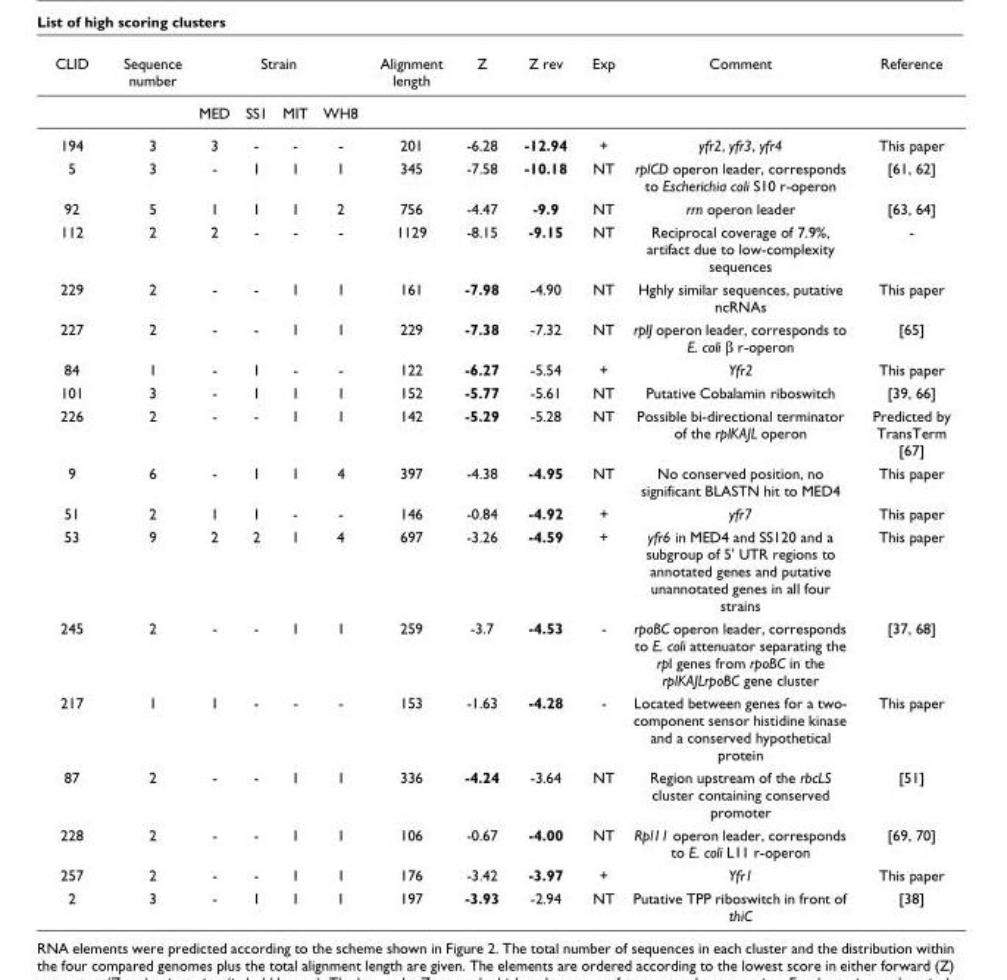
<table><thead><tr><td rowspan="2">CLID</td><td rowspan="2">Sequence number</td><td colspan="4">Strain</td><td rowspan="2">Alignment length</td><td rowspan="2">Z</td><td rowspan="2">Z rev</td><td rowspan="2">Exp</td><td rowspan="2">Comment</td><td rowspan="2">Reference</td></tr><tr><td>MED</td><td>SS1</td><td>MIT</td><td>WH8</td></tr></thead><tbody><tr><td>194</td><td>3</td><td>3</td><td>-</td><td>-</td><td>-</td><td>201</td><td>-6.28</td><td>-12.94</td><td>+</td><td>yfr2, yfr3, yfr4</td><td>This paper</td></tr><tr><td>5</td><td>3</td><td>-</td><td>1</td><td>1</td><td>1</td><td>345</td><td>-7.58</td><td>-10.18</td><td>NT</td><td>rplCD operon leader, corresponds to Escherichia coli S10 r-operon</td><td>[61, 62]</td></tr><tr><td>92</td><td>5</td><td>1</td><td>1</td><td>1</td><td>2</td><td>756</td><td>-4.47</td><td>-9.9</td><td>NT</td><td>rrn operon leader</td><td>[63, 64]</td></tr><tr><td>112</td><td>2</td><td>2</td><td>-</td><td>-</td><td>-</td><td>1129</td><td>-8.15</td><td>-9.15</td><td>NT</td><td>Reciprocal coverage of 7.9%, artifact due to low-complexity sequences</td><td>-</td></tr><tr><td>229</td><td>2</td><td>-</td><td>-</td><td>1</td><td>1</td><td>161</td><td>-7.98</td><td>-4.90</td><td>NT</td><td>Hghly similar sequences, putative ncRNAs</td><td>This paper</td></tr><tr><td>227</td><td>2</td><td>-</td><td>-</td><td>1</td><td>1</td><td>229</td><td>-7.38</td><td>-7.32</td><td>NT</td><td>rplJ operon leader, corresponds to E. coli β r-operon</td><td>[65]</td></tr><tr><td>84</td><td>1</td><td>-</td><td>1</td><td>-</td><td>-</td><td>122</td><td>-6.27</td><td>-5.54</td><td>+</td><td>Yfr2</td><td>This paper</td></tr><tr><td>101</td><td>3</td><td>-</td><td>1</td><td>1</td><td>1</td><td>152</td><td>-5.77</td><td>-5.61</td><td>NT</td><td>Putative Cobalamin riboswitch</td><td>[39, 66]</td></tr><tr><td>226</td><td>2</td><td>-</td><td>-</td><td>1</td><td>1</td><td>142</td><td>-5.29</td><td>-5.28</td><td>NT</td><td>Possible bi-directional terminator of the rplKAJL operon</td><td>Predicted by TransTerm [67]</td></tr><tr><td>9</td><td>6</td><td>-</td><td>1</td><td>1</td><td>4</td><td>397</td><td>-4.38</td><td>-4.95</td><td>NT</td><td>No conserved position, no significant BLASTN hit to MED4</td><td>This paper</td></tr><tr><td>51</td><td>2</td><td>1</td><td>1</td><td>-</td><td>-</td><td>146</td><td>-0.84</td><td>-4.92</td><td>+</td><td>yfr7</td><td>This paper</td></tr><tr><td>53</td><td>9</td><td>2</td><td>2</td><td>1</td><td>4</td><td>697</td><td>-3.26</td><td>-4.59</td><td>+</td><td>yfr6 in MED4 and SS120 and a subgroup of 5&#x27; UTR regions to annotated genes and putative unannotated genes in all four strains</td><td>This paper</td></tr><tr><td>245</td><td>2</td><td>-</td><td>-</td><td>1</td><td>1</td><td>259</td><td>-3.7</td><td>-4.53</td><td>-</td><td>rpoBC operon leader, corresponds to E. coli attenuator separating the rpl genes from rpoBC in the rplKAJLrpoBC gene cluster</td><td>[37, 68]</td></tr><tr><td>217</td><td>1</td><td>1</td><td>-</td><td>-</td><td>-</td><td>153</td><td>-1.63</td><td>-4.28</td><td>-</td><td>Located between genes for a two- component sensor histidine kinase and a conserved hypothetical protein</td><td>This paper</td></tr><tr><td>87</td><td>2</td><td>-</td><td>-</td><td>1</td><td>1</td><td>336</td><td>-4.24</td><td>-3.64</td><td>NT</td><td>Region upstream of the rbcLS cluster containing conserved promoter</td><td>[51]</td></tr><tr><td>228</td><td>2</td><td>-</td><td>-</td><td>1</td><td>1</td><td>106</td><td>-0.67</td><td>-4.00</td><td>NT</td><td>Rpl11 operon leader, corresponds to E. coli L11 r-operon</td><td>[69, 70]</td></tr><tr><td>257</td><td>2</td><td>-</td><td>-</td><td>1</td><td>1</td><td>176</td><td>-3.42</td><td>-3.97</td><td>+</td><td>Yfr1</td><td>This paper</td></tr><tr><td>2</td><td>3</td><td>-</td><td>1</td><td>1</td><td>1</td><td>197</td><td>-3.93</td><td>-2.94</td><td>NT</td><td>Putative TPP riboswitch in front of thiC</td><td>[38]</td></tr></tbody></table>